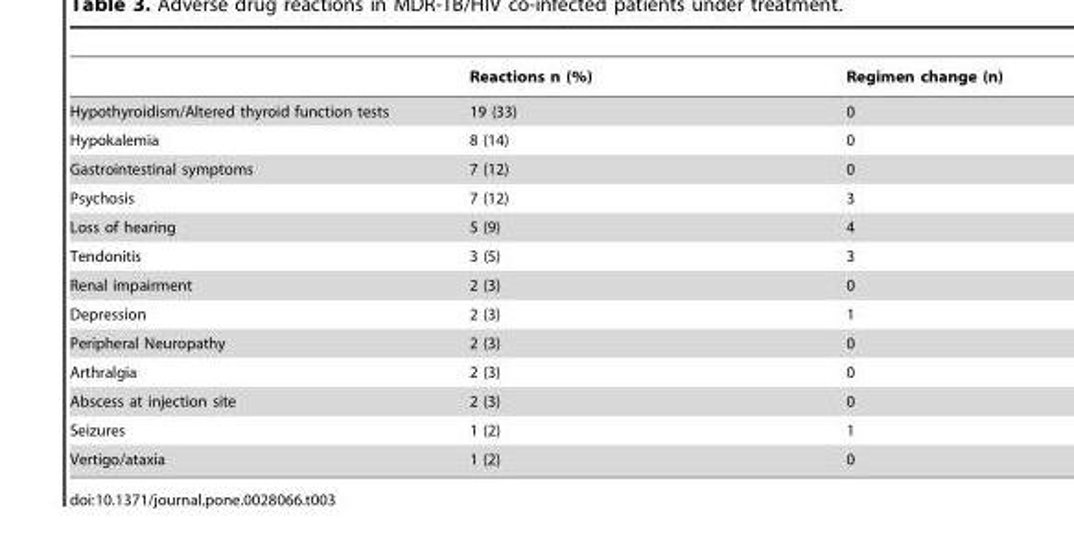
<table><thead><tr><td></td><td>Reactions n (%)</td><td>Regimen change (n)</td></tr></thead><tbody><tr><td>Hypothyroidism/Altered thyroid function tests</td><td>19 (33)</td><td>0</td></tr><tr><td>Hypokalemia</td><td>8 (14)</td><td>0</td></tr><tr><td>Gastrointestinal symptoms</td><td>7 (12)</td><td>0</td></tr><tr><td>Psychosis</td><td>7 (12)</td><td>3</td></tr><tr><td>Loss of hearing</td><td>5 (9)</td><td>4</td></tr><tr><td>Tendonitis</td><td>3 (5)</td><td>3</td></tr><tr><td>Renal impairment</td><td>2 (3)</td><td>0</td></tr><tr><td>Depression</td><td>2 (3)</td><td>1</td></tr><tr><td>Peripheral Neuropathy</td><td>2 (3)</td><td>0</td></tr><tr><td>Arthralgia</td><td>2 (3)</td><td>0</td></tr><tr><td>Abscess at injection site</td><td>2 (3)</td><td>0</td></tr><tr><td>Seizures</td><td>1 (2)</td><td>1</td></tr><tr><td>Vertigo/ataxia</td><td>1 (2)</td><td>0</td></tr></tbody></table>